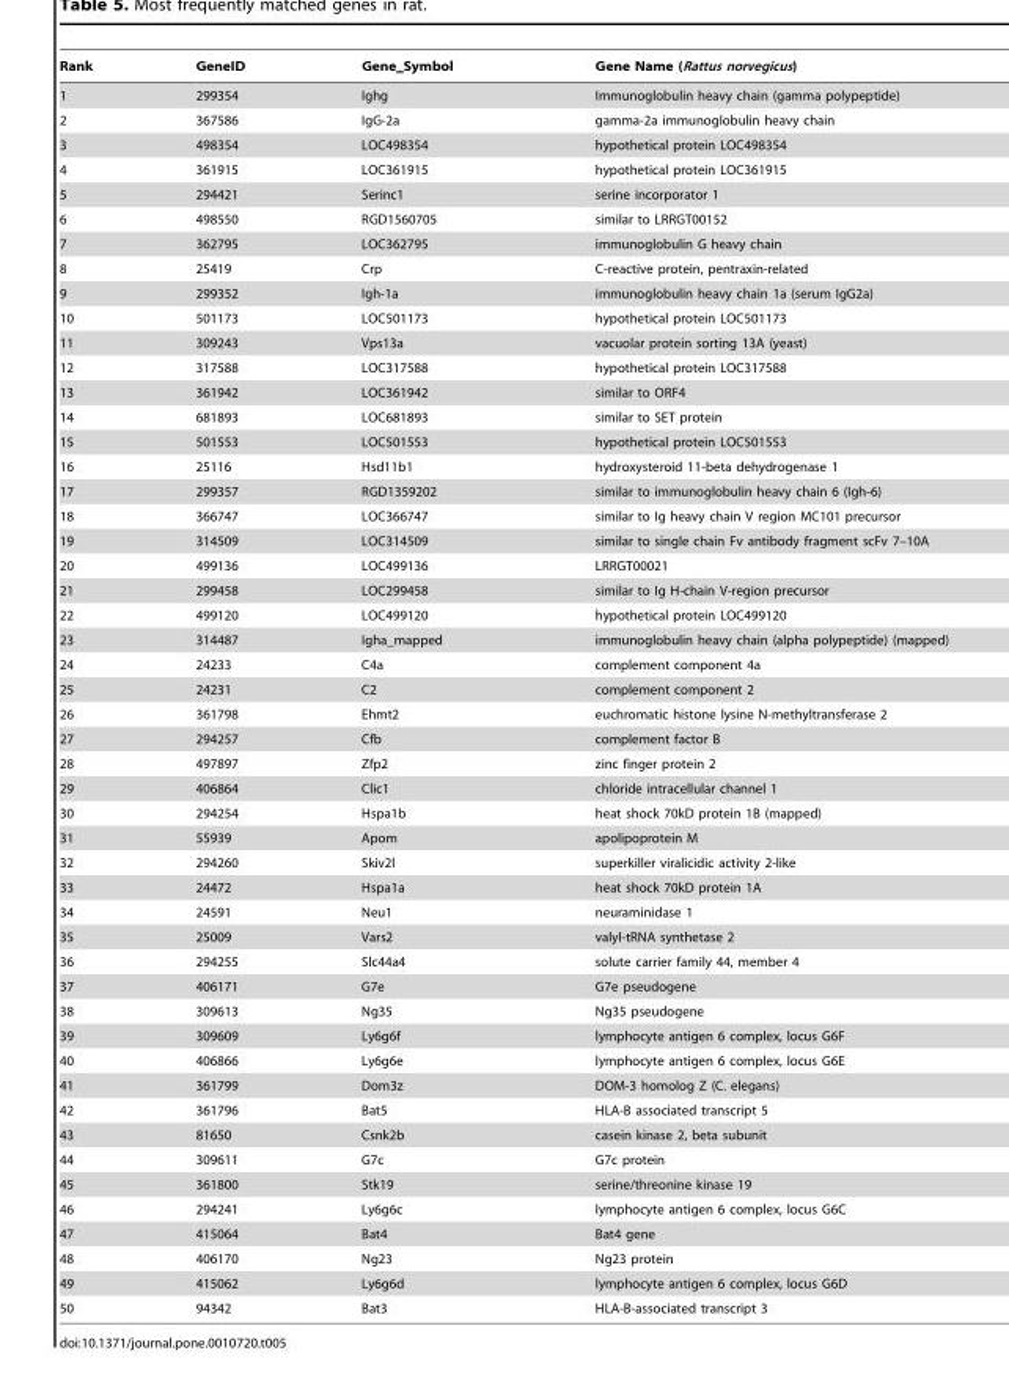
<table><thead><tr><td>Rank</td><td>GeneID</td><td>Gene__Symbol</td><td>Gene Name (Rattus norvegicus)</td></tr></thead><tbody><tr><td>1</td><td>299354</td><td>Ighg</td><td>Immunoglobulin heavy chain (gamma polypeptide)</td></tr><tr><td>2</td><td>367586</td><td>IgG-2a</td><td>gamma-2a immunoglobulin heavy chain</td></tr><tr><td>3</td><td>498354</td><td>LOC498354</td><td>hypothetical protein LOC498354</td></tr><tr><td>4</td><td>361915</td><td>LOC361915</td><td>hypothetical protein LOC361915</td></tr><tr><td>5</td><td>294421</td><td>Serinc1</td><td>serine incorporator 1</td></tr><tr><td>6</td><td>498550</td><td>RGD1560705</td><td>similar to LRRGT00152</td></tr><tr><td>7</td><td>362795</td><td>LOC362795</td><td>immunoglobulin G heavy chain</td></tr><tr><td>8</td><td>25419</td><td>Crp</td><td>C-reactive protein, pentraxin-related</td></tr><tr><td>9</td><td>299352</td><td>Igh-1a</td><td>immunoglobulin heavy chain 1a (serum IgG2a)</td></tr><tr><td>10</td><td>501173</td><td>LOC501173</td><td>hypothetical protein LOC501173</td></tr><tr><td>11</td><td>309243</td><td>Vps13a</td><td>vacuolar protein sorting 13A (yeast)</td></tr><tr><td>12</td><td>317588</td><td>LOC317588</td><td>hypothetical protein LOC317588</td></tr><tr><td>13</td><td>361942</td><td>LOC361942</td><td>similar to ORF4</td></tr><tr><td>14</td><td>681893</td><td>LOC681893</td><td>similar to SET protein</td></tr><tr><td>15</td><td>501553</td><td>LOC501553</td><td>hypothetical protein LOC501553</td></tr><tr><td>16</td><td>25116</td><td>Hsd11b1</td><td>hydroxysteroid 11-beta dehydrogenase 1</td></tr><tr><td>17</td><td>299357</td><td>RGD1359202</td><td>similar to immunoglobulin heavy chain 6 (Igh-6)</td></tr><tr><td>18</td><td>366747</td><td>LOC366747</td><td>similar to Ig heavy chain V region MC101 precursor</td></tr><tr><td>19</td><td>314509</td><td>LOC314509</td><td>similar to single chain Fv antibody fragment scFv 7–10A</td></tr><tr><td>20</td><td>499136</td><td>LOC499136</td><td>LRRGT00021</td></tr><tr><td>21</td><td>299458</td><td>LOC299458</td><td>similar to Ig H-chain V-region precursor</td></tr><tr><td>22</td><td>499120</td><td>LOC499120</td><td>hypothetical protein LOC499120</td></tr><tr><td>23</td><td>314487</td><td>Igha_mapped</td><td>immunoglobulin heavy chain (alpha polypeptide) (mapped)</td></tr><tr><td>24</td><td>24233</td><td>C4a</td><td>complement component 4a</td></tr><tr><td>25</td><td>24231</td><td>C2</td><td>complement component 2</td></tr><tr><td>26</td><td>361798</td><td>Ehmt2</td><td>euchromatic histone lysine N-methyltransferase 2</td></tr><tr><td>27</td><td>294257</td><td>Cfb</td><td>complement factor B</td></tr><tr><td>28</td><td>497897</td><td>Zfp2</td><td>zinc finger protein 2</td></tr><tr><td>29</td><td>406864</td><td>Clic1</td><td>chloride intracellular channel 1</td></tr><tr><td>30</td><td>294254</td><td>Hspa1b</td><td>heat shock 70kD protein 1B (mapped)</td></tr><tr><td>31</td><td>55939</td><td>Apom</td><td>apolipoprotein M</td></tr><tr><td>32</td><td>294260</td><td>Skiv2l</td><td>superkiller viralicidic activity 2-like</td></tr><tr><td>33</td><td>24472</td><td>Hspa1a</td><td>heat shock 70kD protein 1A</td></tr><tr><td>34</td><td>24591</td><td>Neu1</td><td>neuraminidase 1</td></tr><tr><td>35</td><td>25009</td><td>Vars2</td><td>valyl-tRNA synthetase 2</td></tr><tr><td>36</td><td>294255</td><td>Slc44a4</td><td>solute carrier family 44, member 4</td></tr><tr><td>37</td><td>406171</td><td>G7e</td><td>G7e pseudogene</td></tr><tr><td>38</td><td>309613</td><td>Ng35</td><td>Ng35 pseudogene</td></tr><tr><td>39</td><td>309609</td><td>Ly6g6f</td><td>lymphocyte antigen 6 complex, locus G6F</td></tr><tr><td>40</td><td>406866</td><td>Ly6g6e</td><td>lymphocyte antigen 6 complex, locus G6E</td></tr><tr><td>41</td><td>361799</td><td>Dom3z</td><td>DOM-3 homolog Z (C. elegans)</td></tr><tr><td>42</td><td>361796</td><td>Bat5</td><td>HLA-B associated transcript 5</td></tr><tr><td>43</td><td>81650</td><td>Csnk2b</td><td>casein kinase 2, beta subunit</td></tr><tr><td>44</td><td>309611</td><td>G7c</td><td>G7c protein</td></tr><tr><td>45</td><td>361800</td><td>Stk19</td><td>serine/threonine kinase 19</td></tr><tr><td>46</td><td>294241</td><td>Ly6g6c</td><td>lymphocyte antigen 6 complex, locus G6C</td></tr><tr><td>47</td><td>415064</td><td>Bat4</td><td>Bat4 gene</td></tr><tr><td>48</td><td>406170</td><td>Ng23</td><td>Ng23 protein</td></tr><tr><td>49</td><td>415062</td><td>Ly6g6d</td><td>lymphocyte antigen 6 complex, locus G6D</td></tr><tr><td>50</td><td>94342</td><td>Bat3</td><td>HLA-B-associated transcript 3</td></tr></tbody></table>